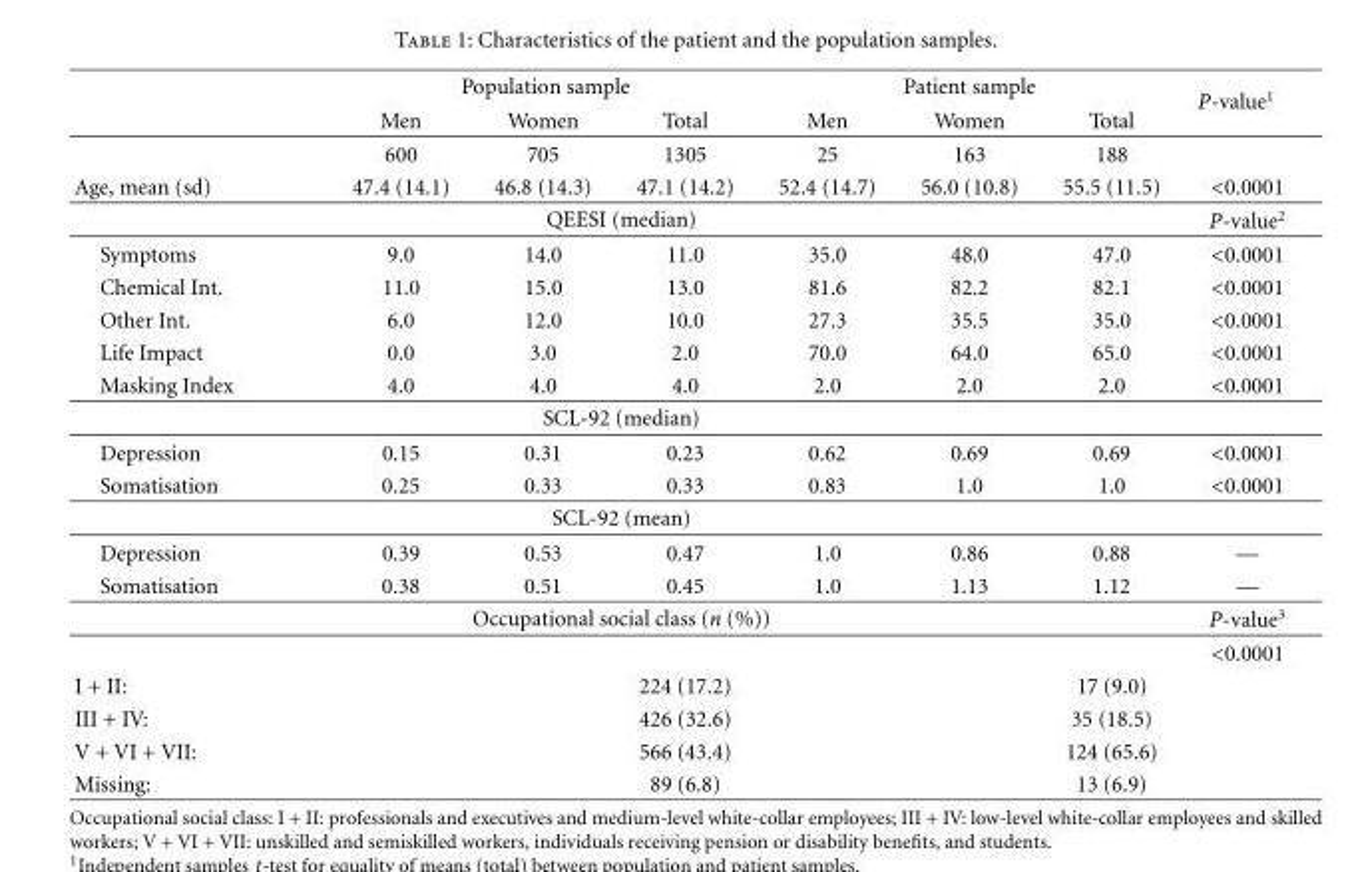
<table><thead><tr><td rowspan="2"></td><td colspan="3">Population sample</td><td colspan="3">Patient sample</td><td rowspan="2">P-value<sup>1</sup></td></tr><tr><td>Men</td><td>Women</td><td>Total</td><td>Men</td><td>Women</td><td>Total</td></tr></thead><tbody><tr><td></td><td>600</td><td>705</td><td>1305</td><td>25</td><td>163</td><td>188</td><td></td></tr><tr><td>Age, mean (sd)</td><td>47.4 (14.1)</td><td>46.8 (14.3)</td><td>47.1 (14.2)</td><td>52.4 (14.7)</td><td>56.0 (10.8)</td><td>55.5 (11.5)</td><td>&lt;0.0001</td></tr><tr><td colspan="7">QEESI (median)</td><td>P-value<sup>2</sup></td></tr><tr><td>Symptoms</td><td>9.0</td><td>14.0</td><td>11.0</td><td>35.0</td><td>48.0</td><td>47.0</td><td>&lt;0.0001</td></tr><tr><td>Chemical Int.</td><td>11.0</td><td>15.0</td><td>13.0</td><td>81.6</td><td>82.2</td><td>82.1</td><td>&lt;0.0001</td></tr><tr><td>Other Int.</td><td>6.0</td><td>12.0</td><td>10.0</td><td>27.3</td><td>35.5</td><td>35.0</td><td>&lt;0.0001</td></tr><tr><td>Life Impact</td><td>0.0</td><td>3.0</td><td>2.0</td><td>70.0</td><td>64.0</td><td>65.0</td><td>&lt;0.0001</td></tr><tr><td>Masking Index</td><td>4.0</td><td>4.0</td><td>4.0</td><td>2.0</td><td>2.0</td><td>2.0</td><td>&lt;0.0001</td></tr><tr><td colspan="8">SCL-92 (median)</td></tr><tr><td>Depression</td><td>0.15</td><td>0.31</td><td>0.23</td><td>0.62</td><td>0.69</td><td>0.69</td><td>&lt;0.0001</td></tr><tr><td>Somatisation</td><td>0.25</td><td>0.33</td><td>0.33</td><td>0.83</td><td>1.0</td><td>1.0</td><td>&lt;0.0001</td></tr><tr><td colspan="8">SCL-92 (mean)</td></tr><tr><td>Depression</td><td>0.39</td><td>0.53</td><td>0.47</td><td>1.0</td><td>0.86</td><td>0.88</td><td>—</td></tr><tr><td>Somatisation</td><td>0.38</td><td>0.51</td><td>0.45</td><td>1.0</td><td>1.13</td><td>1.12</td><td>—</td></tr><tr><td colspan="7">Occupational social class (n (%))</td><td>P-value<sup>3</sup></td></tr><tr><td colspan="2"></td><td></td><td></td><td></td><td></td><td></td><td>&lt;0.0001</td></tr><tr><td>I + II:</td><td></td><td></td><td>224 (17.2)</td><td></td><td></td><td>17 (9.0)</td><td></td></tr><tr><td>III + IV:</td><td></td><td></td><td>426 (32.6)</td><td></td><td></td><td>35 (18.5)</td><td></td></tr><tr><td>V + VI + VII:</td><td></td><td></td><td>566 (43.4)</td><td></td><td></td><td>124 (65.6)</td><td></td></tr><tr><td>Missing:</td><td></td><td></td><td>89 (6.8)</td><td></td><td></td><td>13 (6.9)</td><td></td></tr></tbody></table>